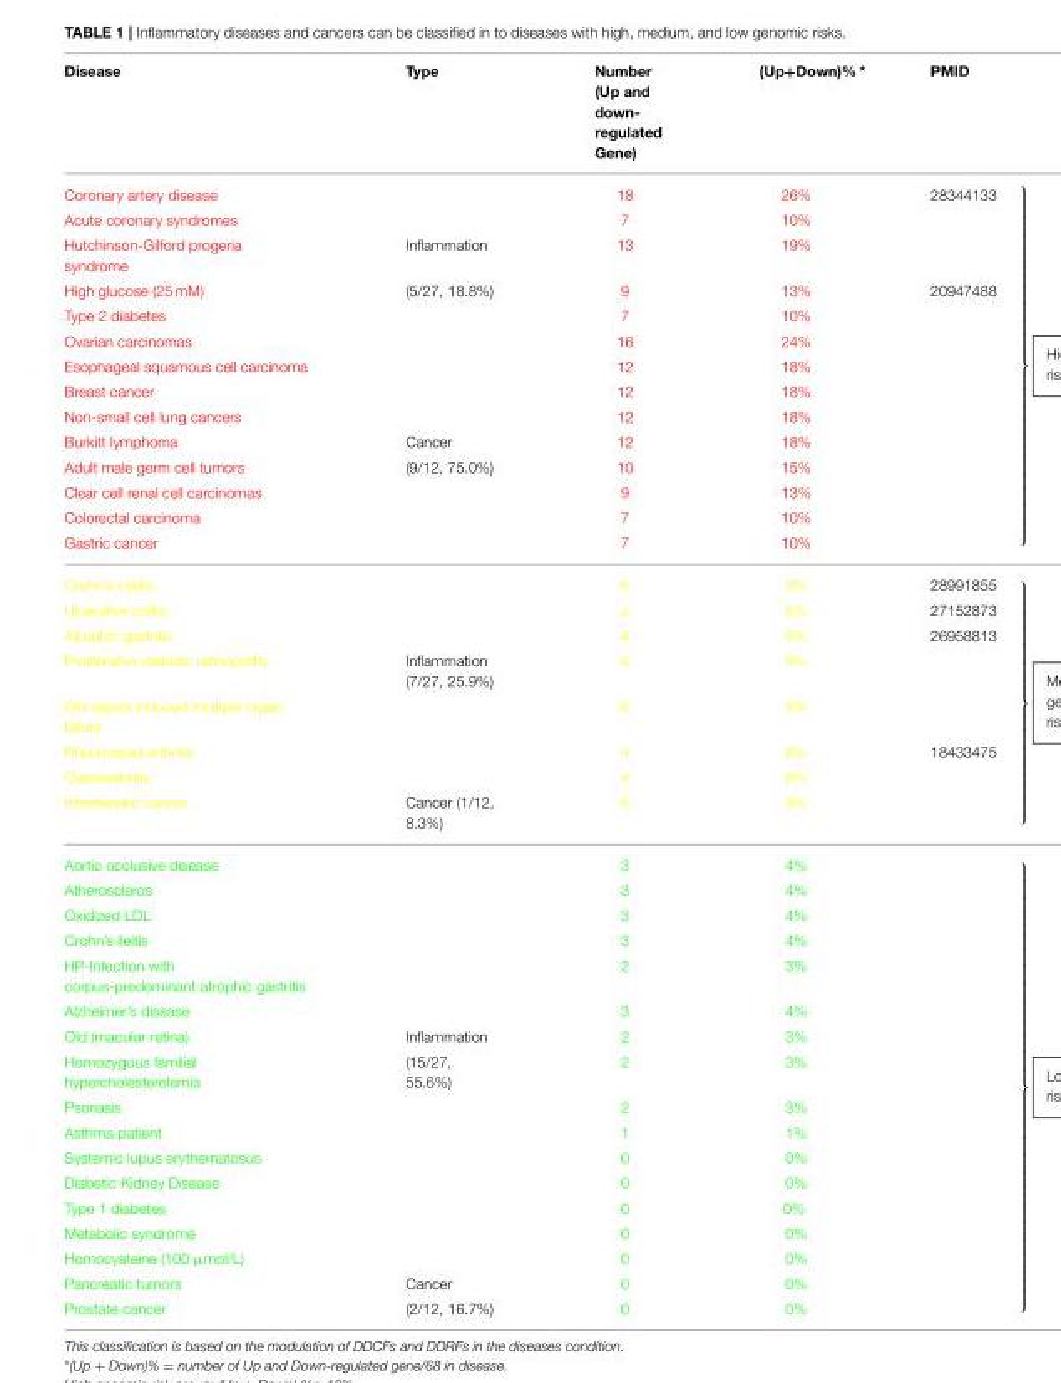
<table><thead><tr><td>Disease</td><td>Type</td><td>Number (Up and down- regulated Gene)</td><td>(Up+Down)% *</td><td>PMID</td></tr></thead><tbody><tr><td>Coronary artery disease</td><td></td><td>18</td><td>26%</td><td>28344133</td></tr><tr><td>Acute coronary syndromes</td><td></td><td>7</td><td>10%</td><td></td></tr><tr><td>Hutchinson-Gilford progeria syndrome</td><td>Inflammation</td><td>13</td><td>19%</td><td></td></tr><tr><td>High glucose (25 mM)</td><td>(5/27, 18.8%)</td><td>9</td><td>13%</td><td>20947488</td></tr><tr><td>Type 2 diabetes</td><td></td><td>7</td><td>10%</td><td></td></tr><tr><td>Ovarian carcinomas</td><td></td><td>16</td><td>24%</td><td></td></tr><tr><td>Esophageal squamous cell carcinoma</td><td></td><td>12</td><td>18%</td><td></td></tr><tr><td>Breast cancer</td><td></td><td>12</td><td>18%</td><td></td></tr><tr><td>Non-small cell lung cancers</td><td></td><td>12</td><td>18%</td><td></td></tr><tr><td>Burkitt lymphoma</td><td>Cancer</td><td>12</td><td>18%</td><td></td></tr><tr><td>Adult male germ cell tumors</td><td>(9/12, 75.0%)</td><td>10</td><td>15%</td><td></td></tr><tr><td>Clear cell renal cell carcinomas</td><td></td><td>9</td><td>13%</td><td></td></tr><tr><td>Colorectal carcinoma</td><td></td><td>7</td><td>10%</td><td></td></tr><tr><td>Gastric cancer</td><td></td><td>7</td><td>10%</td><td></td></tr><tr><td>Crohn’s colitis</td><td></td><td>6</td><td>9%</td><td>28991855</td></tr><tr><td>Ulcerative colitis</td><td></td><td>4</td><td>6%</td><td>27152873</td></tr><tr><td>Atrophic gastritis</td><td></td><td>4</td><td>6%</td><td>26958813</td></tr><tr><td>Proliferative diabetic retinopathy</td><td>Inflammation (7/27, 25.9%)</td><td>6</td><td>9%</td><td></td></tr><tr><td>Old sepsis induced multiple organ failure</td><td></td><td>6</td><td>9%</td><td></td></tr><tr><td>Rheumatoid arthritis</td><td></td><td>4</td><td>6%</td><td>18433475</td></tr><tr><td>Osteoarthritis</td><td></td><td>4</td><td>6%</td><td></td></tr><tr><td>Intrahepatic cancer</td><td>Cancer (1/12, 8.3%)</td><td>6</td><td>9%</td><td></td></tr><tr><td>Aortic occlusive disease</td><td></td><td>3</td><td>4%</td><td></td></tr><tr><td>Atheroscleros</td><td></td><td>3</td><td>4%</td><td></td></tr><tr><td>Oxidized LDL</td><td></td><td>3</td><td>4%</td><td></td></tr><tr><td>Crohn’s ileitis</td><td></td><td>3</td><td>4%</td><td></td></tr><tr><td>HP-Infection with corpus-predominant atrophic gastritis</td><td></td><td>2</td><td>3%</td><td></td></tr><tr><td>Alzheimer’s disease</td><td></td><td>3</td><td>4%</td><td></td></tr><tr><td>Old (macular retina)</td><td>Inflammation</td><td>2</td><td>3%</td><td></td></tr><tr><td>Homozygous familial hypercholesterolemia</td><td>(15/27, 55.6%)</td><td>2</td><td>3%</td><td></td></tr><tr><td>Psoriasis</td><td></td><td>2</td><td>3%</td><td></td></tr><tr><td>Asthma patient</td><td></td><td>1</td><td>1%</td><td></td></tr><tr><td>Systemic lupus erythematosus</td><td></td><td>0</td><td>0%</td><td></td></tr><tr><td>Diabetic Kidney Disease</td><td></td><td>0</td><td>0%</td><td></td></tr><tr><td>Type 1 diabetes</td><td></td><td>0</td><td>0%</td><td></td></tr><tr><td>Metabolic syndrome</td><td></td><td>0</td><td>0%</td><td></td></tr><tr><td>Homocysteine (100 µmol/L)</td><td></td><td>0</td><td>0%</td><td></td></tr><tr><td>Pancreatic tumors</td><td>Cancer</td><td>0</td><td>0%</td><td></td></tr><tr><td>Prostate cancer</td><td>(2/12, 16.7%)</td><td>0</td><td>0%</td><td></td></tr></tbody></table>